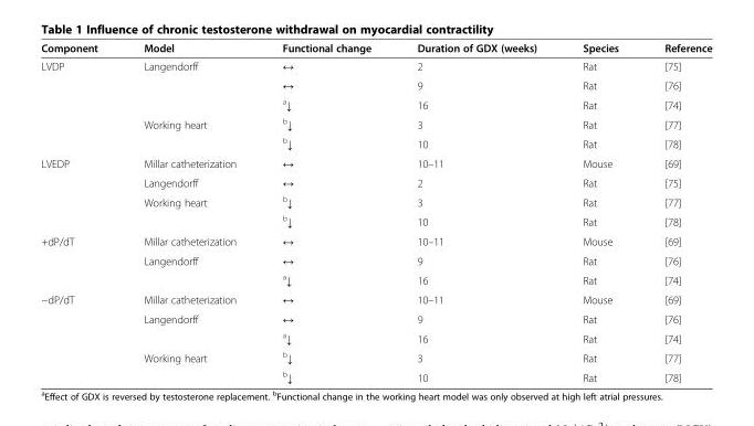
<table><thead><tr><td>Component</td><td>Model</td><td>Functional change</td><td>Duration of GDX (weeks)</td><td>Species</td><td>Reference</td></tr></thead><tbody><tr><td rowspan="5">LVDP</td><td rowspan="3">Langendorff</td><td>↔</td><td>2</td><td>Rat</td><td>[75]</td></tr><tr><td>↔</td><td>9</td><td>Rat</td><td>[76]</td></tr><tr><td><sup>a</sup>↓</td><td>16</td><td>Rat</td><td>[74]</td></tr><tr><td rowspan="2">Working heart</td><td><sup>b</sup>↓</td><td>3</td><td>Rat</td><td>[77]</td></tr><tr><td><sup>b</sup>↓</td><td>10</td><td>Rat</td><td>[78]</td></tr><tr><td rowspan="4">LVEDP</td><td>Millar catheterization</td><td>↔</td><td>10–11</td><td>Mouse</td><td>[69]</td></tr><tr><td>Langendorff</td><td>↔</td><td>2</td><td>Rat</td><td>[75]</td></tr><tr><td rowspan="2">Working heart</td><td><sup>b</sup>↓</td><td>3</td><td>Rat</td><td>[77]</td></tr><tr><td><sup>b</sup>↓</td><td>10</td><td>Rat</td><td>[78]</td></tr><tr><td rowspan="3">+dP/dT</td><td>Millar catheterization</td><td>↔</td><td>10–11</td><td>Mouse</td><td>[69]</td></tr><tr><td rowspan="2">Langendorff</td><td>↔</td><td>9</td><td>Rat</td><td>[76]</td></tr><tr><td><sup>a</sup>↓</td><td>16</td><td>Rat</td><td>[74]</td></tr><tr><td rowspan="5">−dP/dT</td><td>Millar catheterization</td><td>↔</td><td>10–11</td><td>Mouse</td><td>[69]</td></tr><tr><td rowspan="2">Langendorff</td><td>↔</td><td>9</td><td>Rat</td><td>[76]</td></tr><tr><td><sup>a</sup>↓</td><td>16</td><td>Rat</td><td>[74]</td></tr><tr><td rowspan="2">Working heart</td><td><sup>b</sup>↓</td><td>3</td><td>Rat</td><td>[77]</td></tr><tr><td><sup>b</sup>↓</td><td>10</td><td>Rat</td><td>[78]</td></tr></tbody></table>